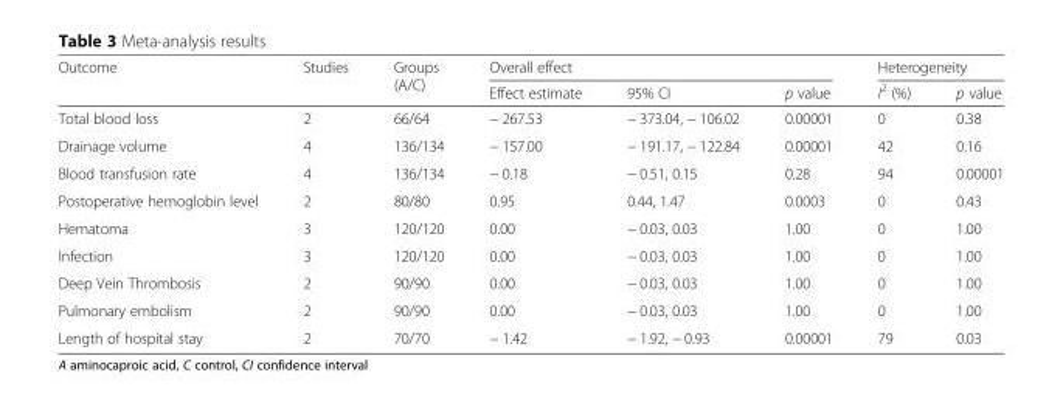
<table><thead><tr><td rowspan="2">Outcome</td><td rowspan="2">Studies</td><td rowspan="2">Groups (A/C)</td><td colspan="3">Overall effect</td><td colspan="2">Heterogeneity</td></tr><tr><td>Effect estimate</td><td>95% CI</td><td>p value</td><td>I<sup>2</sup> (%)</td><td>p value</td></tr></thead><tbody><tr><td>Total blood loss</td><td>2</td><td>66/64</td><td>− 267.53</td><td>− 373.04, − 106.02</td><td>0.00001</td><td>0</td><td>0.38</td></tr><tr><td>Drainage volume</td><td>4</td><td>136/134</td><td>− 157.00</td><td>− 191.17, − 122.84</td><td>0.00001</td><td>42</td><td>0.16</td></tr><tr><td>Blood transfusion rate</td><td>4</td><td>136/134</td><td>− 0.18</td><td>− 0.51, 0.15</td><td>0.28</td><td>94</td><td>0.00001</td></tr><tr><td>Postoperative hemoglobin level</td><td>2</td><td>80/80</td><td>0.95</td><td>0.44, 1.47</td><td>0.0003</td><td>0</td><td>0.43</td></tr><tr><td>Hematoma</td><td>3</td><td>120/120</td><td>0.00</td><td>− 0.03, 0.03</td><td>1.00</td><td>0</td><td>1.00</td></tr><tr><td>Infection</td><td>3</td><td>120/120</td><td>0.00</td><td>− 0.03, 0.03</td><td>1.00</td><td>0</td><td>1.00</td></tr><tr><td>Deep Vein Thrombosis</td><td>2</td><td>90/90</td><td>0.00</td><td>− 0.03, 0.03</td><td>1.00</td><td>0</td><td>1.00</td></tr><tr><td>Pulmonary embolism</td><td>2</td><td>90/90</td><td>0.00</td><td>− 0.03, 0.03</td><td>1.00</td><td>0</td><td>1.00</td></tr><tr><td>Length of hospital stay</td><td>2</td><td>70/70</td><td>− 1.42</td><td>− 1.92, − 0.93</td><td>0.00001</td><td>79</td><td>0.03</td></tr></tbody></table>